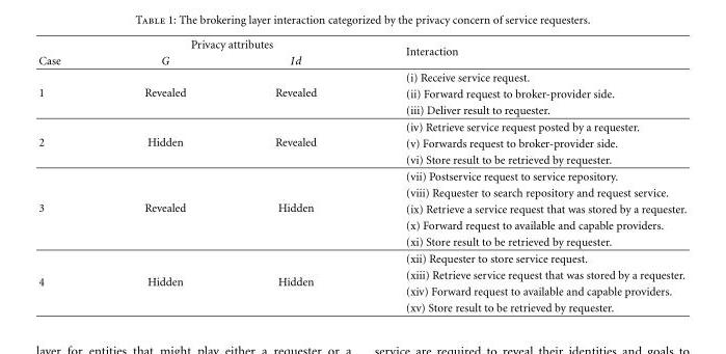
<table><thead><tr><td rowspan="2">Case</td><td colspan="2">Privacy attributes</td><td rowspan="2">Interaction</td></tr><tr><td>G</td><td>Id</td></tr></thead><tbody><tr><td rowspan="3">1</td><td rowspan="3">Revealed</td><td rowspan="3">Revealed</td><td>(i) Receive service request.</td></tr><tr><td>(ii) Forward request to broker-provider side.</td></tr><tr><td>(iii) Deliver result to requester.</td></tr><tr><td rowspan="3">2</td><td rowspan="3">Hidden</td><td rowspan="3">Revealed</td><td>(iv) Retrieve service request posted by a requester.</td></tr><tr><td>(v) Forwards request to broker-provider side.</td></tr><tr><td>(vi) Store result to be retrieved by requester.</td></tr><tr><td rowspan="5">3</td><td rowspan="5">Revealed</td><td rowspan="5">Hidden</td><td>(vii) Postservice request to service repository.</td></tr><tr><td>(viii) Requester to search repository and request service.</td></tr><tr><td>(ix) Retrieve a service request that was stored by a requester.</td></tr><tr><td>(x) Forward request to available and capable providers.</td></tr><tr><td>(xi) Store result to be retrieved by requester.</td></tr><tr><td rowspan="4">4</td><td rowspan="4">Hidden</td><td rowspan="4">Hidden</td><td>(xii) Requester to store service request.</td></tr><tr><td>(xiii) Retrieve service request that was stored by a requester.</td></tr><tr><td>(xiv) Forward request to available and capable providers.</td></tr><tr><td>(xv) Store result to be retrieved by requester.</td></tr></tbody></table>